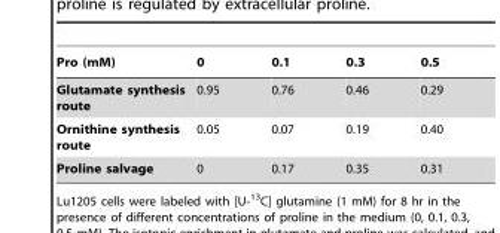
<table><thead><tr><td>Pro (mM)</td><td>0</td><td>0.1</td><td>0.3</td><td>0.5</td></tr></thead><tbody><tr><td>Glutamate synthesis route</td><td>0.95</td><td>0.76</td><td>0.46</td><td>0.29</td></tr><tr><td>Ornithine synthesis route</td><td>0.05</td><td>0.07</td><td>0.19</td><td>0.40</td></tr><tr><td>Proline salvage</td><td>0</td><td>0.17</td><td>0.35</td><td>0.31</td></tr></tbody></table>